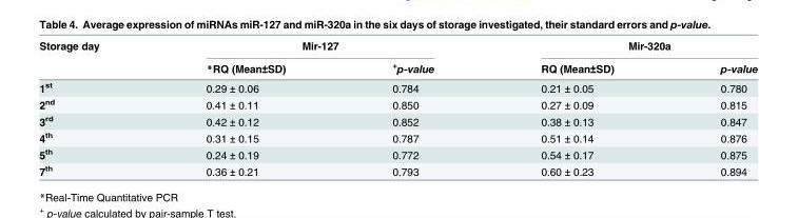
<table><thead><tr><td rowspan="2">Storage day</td><td colspan="2">Mir-127</td><td colspan="2">Mir-320a</td></tr><tr><td>*RQ (Mean±SD)</td><td><sup>+</sup>p-value</td><td>RQ (Mean±SD)</td><td>p-value</td></tr></thead><tbody><tr><td>1<sup>st</sup></td><td>0.29 ± 0.06</td><td>0.784</td><td>0.21 ± 0.05</td><td>0.780</td></tr><tr><td>2<sup>nd</sup></td><td>0.41 ± 0.11</td><td>0.850</td><td>0.27 ± 0.09</td><td>0.815</td></tr><tr><td>3<sup>rd</sup></td><td>0.42 ± 0.12</td><td>0.852</td><td>0.38 ± 0.13</td><td>0.847</td></tr><tr><td>4<sup>th</sup></td><td>0.31 ± 0.15</td><td>0.787</td><td>0.51 ± 0.14</td><td>0.876</td></tr><tr><td>5<sup>th</sup></td><td>0.24 ± 0.19</td><td>0.772</td><td>0.54 ± 0.17</td><td>0.875</td></tr><tr><td>7<sup>th</sup></td><td>0.36 ± 0.21</td><td>0.793</td><td>0.60 ± 0.23</td><td>0.894</td></tr></tbody></table>